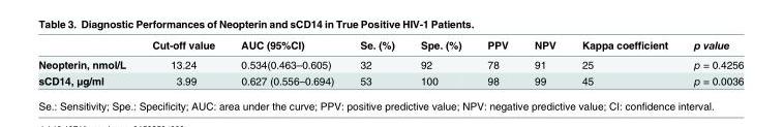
<table><thead><tr><td></td><td>Cut-off value</td><td>AUC (95%CI)</td><td>Se. (%)</td><td>Spe. (%)</td><td>PPV</td><td>NPV</td><td>Kappa coefficient</td><td>p value</td></tr></thead><tbody><tr><td>Neopterin, nmol/L</td><td>13.24</td><td>0.534(0.463–0.605)</td><td>32</td><td>92</td><td>78</td><td>91</td><td>25</td><td>p = 0.4256</td></tr><tr><td>sCD14, μg/ml</td><td>3.99</td><td>0.627 (0.556–0.694)</td><td>53</td><td>100</td><td>98</td><td>99</td><td>45</td><td>p = 0.0036</td></tr></tbody></table>